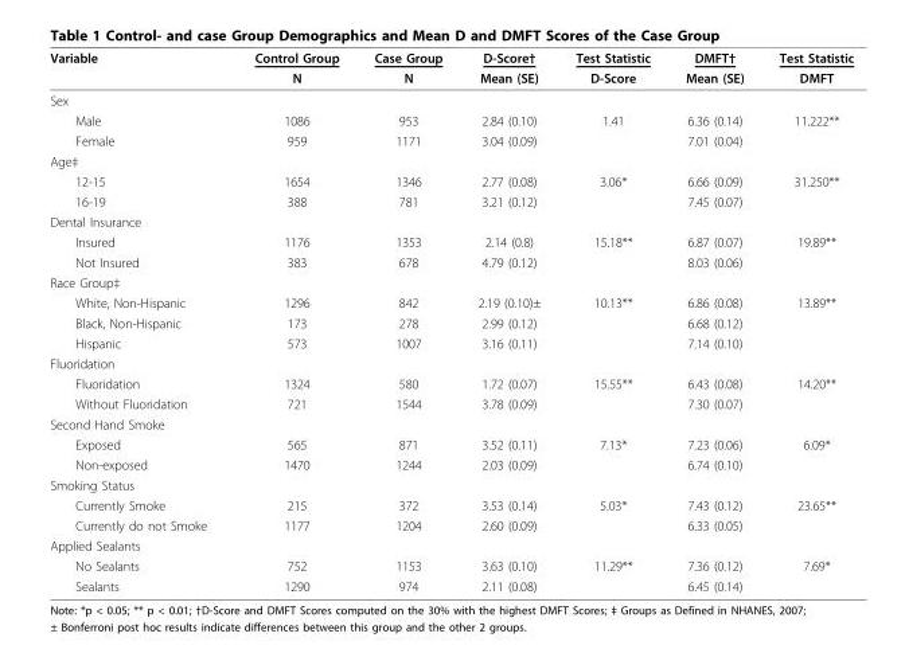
<table><thead><tr><td rowspan="2">Variable</td><td rowspan="2">Control Group N</td><td rowspan="2">Case Group N</td><td rowspan="2">D-Score† Mean (SE)</td><td rowspan="2">Test Statistic D-Score</td><td rowspan="2">DMFT† Mean (SE)</td><td rowspan="2">Test Statistic DMFT</td></tr><tr></tr></thead><tbody><tr><td colspan="7">Sex</td></tr><tr><td>Male</td><td>1086</td><td>953</td><td>2.84 (0.10)</td><td>1.41</td><td>6.36 (0.14)</td><td>11.222**</td></tr><tr><td>Female</td><td>959</td><td>1171</td><td>3.04 (0.09)</td><td></td><td>7.01 (0.04)</td><td></td></tr><tr><td colspan="7">Age‡</td></tr><tr><td>12-15</td><td>1654</td><td>1346</td><td>2.77 (0.08)</td><td>3.06*</td><td>6.66 (0.09)</td><td>31.250**</td></tr><tr><td>16-19</td><td>388</td><td>781</td><td>3.21 (0.12)</td><td></td><td>7.45 (0.07)</td><td></td></tr><tr><td colspan="7">Dental Insurance</td></tr><tr><td>Insured</td><td>1176</td><td>1353</td><td>2.14 (0.8)</td><td>15.18**</td><td>6.87 (0.07)</td><td>19.89**</td></tr><tr><td>Not Insured</td><td>383</td><td>678</td><td>4.79 (0.12)</td><td></td><td>8.03 (0.06)</td><td></td></tr><tr><td colspan="7">Race Group‡</td></tr><tr><td>White, Non-Hispanic</td><td>1296</td><td>842</td><td>2.19 (0.10)±</td><td>10.13**</td><td>6.86 (0.08)</td><td>13.89**</td></tr><tr><td>Black, Non-Hispanic</td><td>173</td><td>278</td><td>2.99 (0.12)</td><td></td><td>6.68 (0.12)</td><td></td></tr><tr><td>Hispanic</td><td>573</td><td>1007</td><td>3.16 (0.11)</td><td></td><td>7.14 (0.10)</td><td></td></tr><tr><td colspan="7">Fluoridation</td></tr><tr><td>Fluoridation</td><td>1324</td><td>580</td><td>1.72 (0.07)</td><td>15.55**</td><td>6.43 (0.08)</td><td>14.20**</td></tr><tr><td>Without Fluoridation</td><td>721</td><td>1544</td><td>3.78 (0.09)</td><td></td><td>7.30 (0.07)</td><td></td></tr><tr><td colspan="7">Second Hand Smoke</td></tr><tr><td>Exposed</td><td>565</td><td>871</td><td>3.52 (0.11)</td><td>7.13*</td><td>7.23 (0.06)</td><td>6.09*</td></tr><tr><td>Non-exposed</td><td>1470</td><td>1244</td><td>2.03 (0.09)</td><td></td><td>6.74 (0.10)</td><td></td></tr><tr><td colspan="7">Smoking Status</td></tr><tr><td>Currently Smoke</td><td>215</td><td>372</td><td>3.53 (0.14)</td><td>5.03*</td><td>7.43 (0.12)</td><td>23.65**</td></tr><tr><td>Currently do not Smoke</td><td>1177</td><td>1204</td><td>2.60 (0.09)</td><td></td><td>6.33 (0.05)</td><td></td></tr><tr><td colspan="7">Applied Sealants</td></tr><tr><td>No Sealants</td><td>752</td><td>1153</td><td>3.63 (0.10)</td><td>11.29**</td><td>7.36 (0.12)</td><td>7.69*</td></tr><tr><td>Sealants</td><td>1290</td><td>974</td><td>2.11 (0.08)</td><td></td><td>6.45 (0.14)</td><td></td></tr></tbody></table>